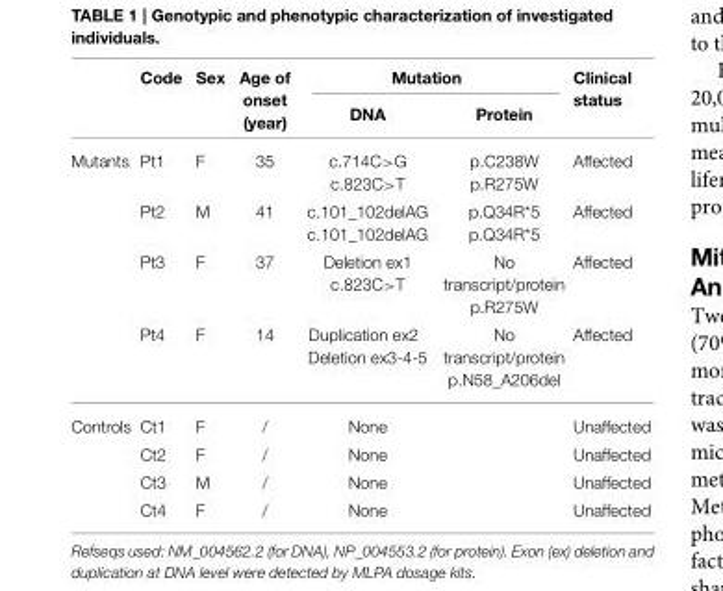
<table><thead><tr><td rowspan="2"></td><td rowspan="2">Code</td><td rowspan="2">Sex</td><td rowspan="2">Age of onset (year)</td><td colspan="2">Mutation</td><td rowspan="2">Clinical status</td></tr><tr><td>DNA</td><td>Protein</td></tr></thead><tbody><tr><td rowspan="4">Mutants</td><td>Pt1</td><td>F</td><td>35</td><td>c.714C&gt;G c.823C&gt;T</td><td>p.C238W p.R275W</td><td>Affected</td></tr><tr><td>Pt2</td><td>M</td><td>41</td><td>c.101_102delAG c.101_102delAG</td><td>p.Q34R*5 p.Q34R*5</td><td>Affected</td></tr><tr><td>Pt3</td><td>F</td><td>37</td><td>Deletion ex1 c.823C&gt;T</td><td>No transcript/protein p.R275W</td><td>Affected</td></tr><tr><td>Pt4</td><td>F</td><td>14</td><td>Duplication ex2 Deletion ex3-4-5</td><td>No transcript/protein p.N58_A206del</td><td>Affected</td></tr><tr><td rowspan="4">Controls</td><td>Ct1</td><td>F</td><td>/</td><td>None</td><td></td><td>Unaffected</td></tr><tr><td>Ct2</td><td>F</td><td>/</td><td>None</td><td></td><td>Unaffected</td></tr><tr><td>Ct3</td><td>M</td><td>/</td><td>None</td><td></td><td>Unaffected</td></tr><tr><td>Ct4</td><td>F</td><td>/</td><td>None</td><td></td><td>Unaffected</td></tr></tbody></table>